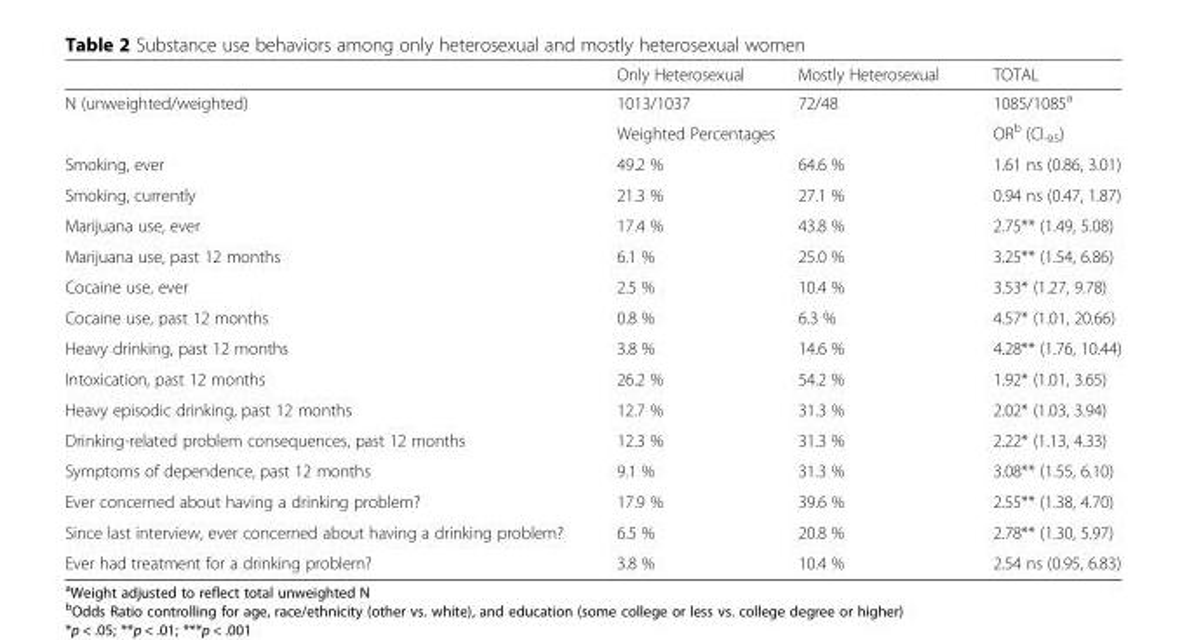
<table><thead><tr><td></td><td>Only Heterosexual</td><td>Mostly Heterosexual</td><td>TOTAL</td></tr></thead><tbody><tr><td rowspan="2">N (unweighted/weighted)</td><td>1013/1037</td><td>72/48</td><td>1085/1085<sup>a</sup></td></tr><tr><td colspan="2">Weighted Percentages</td><td>OR<sup>b</sup> (CI.<sub>95</sub>)</td></tr><tr><td>Smoking, ever</td><td>49.2 %</td><td>64.6 %</td><td>1.61 ns (0.86, 3.01)</td></tr><tr><td>Smoking, currently</td><td>21.3 %</td><td>27.1 %</td><td>0.94 ns (0.47, 1.87)</td></tr><tr><td>Marijuana use, ever</td><td>17.4 %</td><td>43.8 %</td><td>2.75** (1.49, 5.08)</td></tr><tr><td>Marijuana use, past 12 months</td><td>6.1 %</td><td>25.0 %</td><td>3.25** (1.54, 6.86)</td></tr><tr><td>Cocaine use, ever</td><td>2.5 %</td><td>10.4 %</td><td>3.53* (1.27, 9.78)</td></tr><tr><td>Cocaine use, past 12 months</td><td>0.8 %</td><td>6.3 %</td><td>4.57* (1.01, 20.66)</td></tr><tr><td>Heavy drinking, past 12 months</td><td>3.8 %</td><td>14.6 %</td><td>4.28** (1.76, 10.44)</td></tr><tr><td>Intoxication, past 12 months</td><td>26.2 %</td><td>54.2 %</td><td>1.92* (1.01, 3.65)</td></tr><tr><td>Heavy episodic drinking, past 12 months</td><td>12.7 %</td><td>31.3 %</td><td>2.02* (1.03, 3.94)</td></tr><tr><td>Drinking-related problem consequences, past 12 months</td><td>12.3 %</td><td>31.3 %</td><td>2.22* (1.13, 4.33)</td></tr><tr><td>Symptoms of dependence, past 12 months</td><td>9.1 %</td><td>31.3 %</td><td>3.08** (1.55, 6.10)</td></tr><tr><td>Ever concerned about having a drinking problem?</td><td>17.9 %</td><td>39.6 %</td><td>2.55** (1.38, 4.70)</td></tr><tr><td>Since last interview, ever concerned about having a drinking problem?</td><td>6.5 %</td><td>20.8 %</td><td>2.78** (1.30, 5.97)</td></tr><tr><td>Ever had treatment for a drinking problem?</td><td>3.8 %</td><td>10.4 %</td><td>2.54 ns (0.95, 6.83)</td></tr></tbody></table>